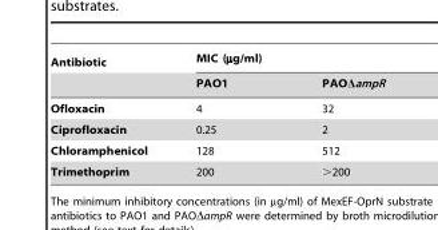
<table><thead><tr><td rowspan="2">Antibiotic</td><td colspan="2">MIC (µg/ml)</td></tr><tr><td>PAO1</td><td>PAOΔampR</td></tr></thead><tbody><tr><td>Ofloxacin</td><td>4</td><td>32</td></tr><tr><td>Ciprofloxacin</td><td>0.25</td><td>2</td></tr><tr><td>Chloramphenicol</td><td>128</td><td>512</td></tr><tr><td>Trimethoprim</td><td>200</td><td>&gt;200</td></tr></tbody></table>